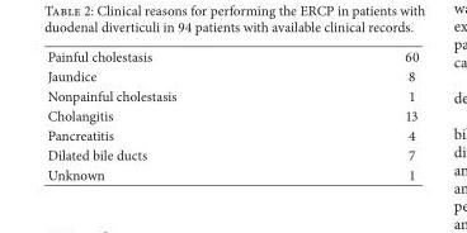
<table><tbody><tr><td>Painful cholestasis</td><td>60</td></tr><tr><td>Jaundice</td><td>8</td></tr><tr><td>Nonpainful cholestasis</td><td>1</td></tr><tr><td>Cholangitis</td><td>13</td></tr><tr><td>Pancreatitis</td><td>4</td></tr><tr><td>Dilated bile ducts</td><td>7</td></tr><tr><td>Unknown</td><td>1</td></tr></tbody></table>